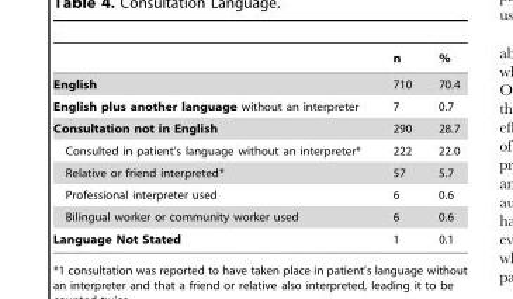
<table><thead><tr><td></td><td>n</td><td>%</td></tr></thead><tbody><tr><td>English</td><td>710</td><td>70.4</td></tr><tr><td>English plus another language without an interpreter</td><td>7</td><td>0.7</td></tr><tr><td>Consultation not in English</td><td>290</td><td>28.7</td></tr><tr><td>Consulted in patient’s language without an interpreter*</td><td>222</td><td>22.0</td></tr><tr><td>Relative or friend interpreted*</td><td>57</td><td>5.7</td></tr><tr><td>Professional interpreter used</td><td>6</td><td>0.6</td></tr><tr><td>Bilingual worker or community worker used</td><td>6</td><td>0.6</td></tr><tr><td>Language Not Stated</td><td>1</td><td>0.1</td></tr></tbody></table>